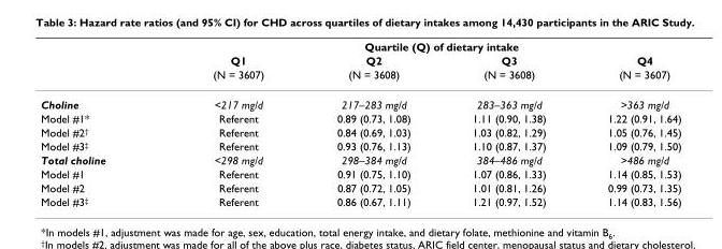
<table><thead><tr><td rowspan="3"></td><td colspan="4">Quartile (Q) of dietary intake</td></tr><tr><td rowspan="2">Q1 (N = 3607)</td><td rowspan="2">Q2 (N = 3608)</td><td rowspan="2">Q3 (N = 3608)</td><td rowspan="2">Q4 (N = 3607)</td></tr><tr></tr></thead><tbody><tr><td>Choline</td><td>&lt;217 mg/d</td><td>217–283 mg/d</td><td>283–363 mg/d</td><td>&gt;363 mg/d</td></tr><tr><td>Model #1*</td><td>Referent</td><td>0.89 (0.73, 1.08)</td><td>1.11 (0.90, 1.38)</td><td>1.22 (0.91, 1.64)</td></tr><tr><td>Model #2<sup>†</sup></td><td>Referent</td><td>0.84 (0.69, 1.03)</td><td>1.03 (0.82, 1.29)</td><td>1.05 (0.76, 1.45)</td></tr><tr><td>Model #3<sup>‡</sup></td><td>Referent</td><td>0.93 (0.76, 1.13)</td><td>1.10 (0.87, 1.37)</td><td>1.09 (0.79, 1.50)</td></tr><tr><td>Total choline</td><td>&lt;298 mg/d</td><td>298–384 mg/d</td><td>384–486 mg/d</td><td>&gt;486 mg/d</td></tr><tr><td>Model #1</td><td>Referent</td><td>0.91 (0.75, 1.10)</td><td>1.07 (0.86, 1.33)</td><td>1.14 (0.85, 1.53)</td></tr><tr><td>Model #2</td><td>Referent</td><td>0.87 (0.72, 1.05)</td><td>1.01 (0.81, 1.26)</td><td>0.99 (0.73, 1.35)</td></tr><tr><td>Model #3<sup>‡</sup></td><td>Referent</td><td>0.86 (0.67, 1.11)</td><td>1.21 (0.97, 1.52)</td><td>1.14 (0.83, 1.56)</td></tr></tbody></table>